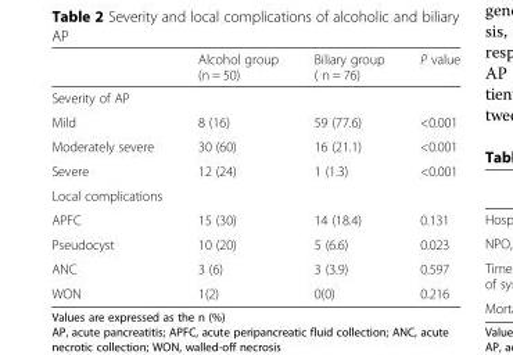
<table><thead><tr><td></td><td>Alcohol group (n = 50)</td><td>Biliary group ( n = 76)</td><td>P value</td></tr></thead><tbody><tr><td colspan="4">Severity of AP</td></tr><tr><td>Mild</td><td>8 (16)</td><td>59 (77.6)</td><td>&lt;0.001</td></tr><tr><td>Moderately severe</td><td>30 (60)</td><td>16 (21.1)</td><td>&lt;0.001</td></tr><tr><td>Severe</td><td>12 (24)</td><td>1 (1.3)</td><td>&lt;0.001</td></tr><tr><td colspan="4">Local complications</td></tr><tr><td>APFC</td><td>15 (30)</td><td>14 (18.4)</td><td>0.131</td></tr><tr><td>Pseudocyst</td><td>10 (20)</td><td>5 (6.6)</td><td>0.023</td></tr><tr><td>ANC</td><td>3 (6)</td><td>3 (3.9)</td><td>0.597</td></tr><tr><td>WON</td><td>1(2)</td><td>0(0)</td><td>0.216</td></tr></tbody></table>